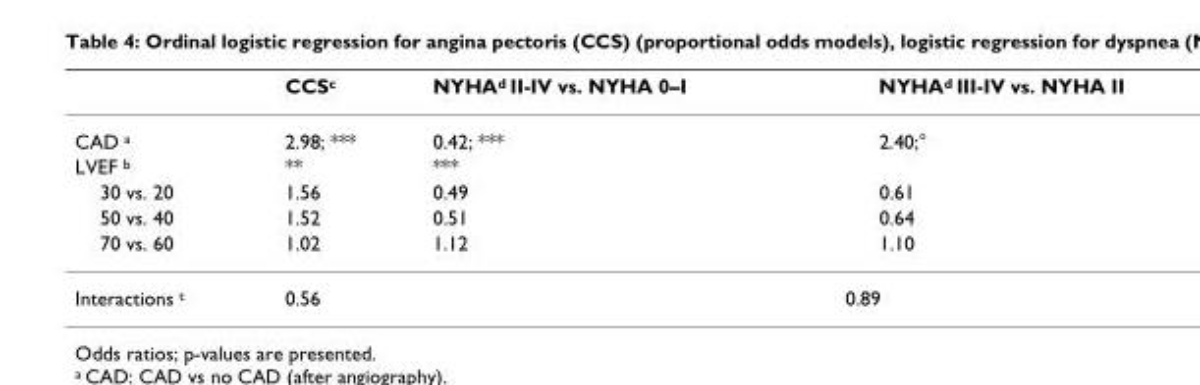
<table><thead><tr><td></td><td>CCS<sup>c</sup></td><td>NYHA<sup>d</sup> II-IV vs. NYHA 0–I</td><td>NYHA<sup>d</sup> III-IV vs. NYHA II</td></tr></thead><tbody><tr><td>CAD <sup>a</sup></td><td>2.98; ***</td><td>0.42; ***</td><td>2.40;°</td></tr><tr><td>LVEF <sup>b</sup></td><td>**</td><td>***</td><td></td></tr><tr><td>30 vs. 20</td><td>1.56</td><td>0.49</td><td>0.61</td></tr><tr><td>50 vs. 40</td><td>1.52</td><td>0.51</td><td>0.64</td></tr><tr><td>70 vs. 60</td><td>1.02</td><td>1.12</td><td>1.10</td></tr><tr><td>Interactions <sup>t</sup></td><td>0.56</td><td colspan="2">0.89</td></tr></tbody></table>